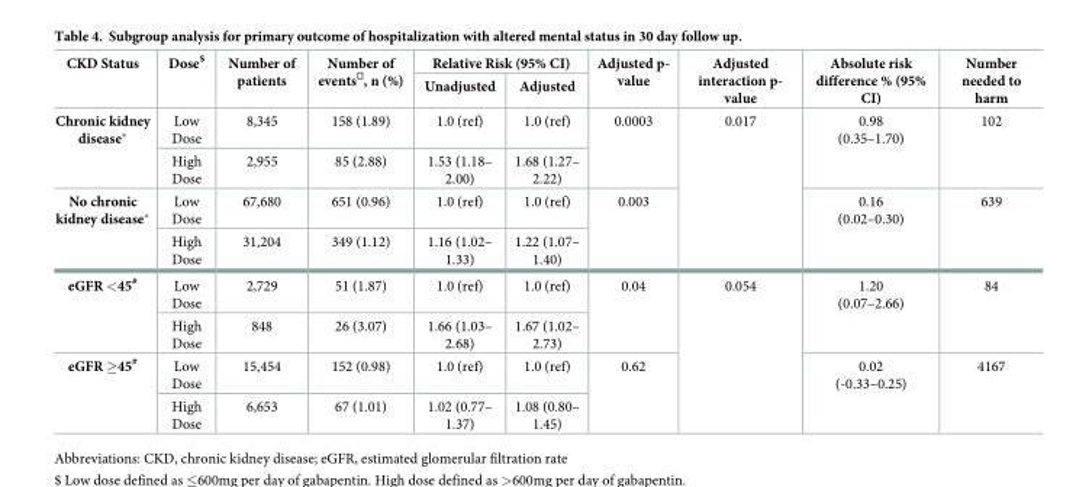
<table><thead><tr><td rowspan="2">CKD Status</td><td rowspan="2">Dose<sup>$</sup></td><td rowspan="2">Number of patients</td><td rowspan="2">Number of events<sup>⏡</sup>, n (%)</td><td colspan="2">Relative Risk (95% CI)</td><td rowspan="2">Adjusted p- value</td><td rowspan="2">Adjusted interaction p- value</td><td rowspan="2">Absolute risk difference % (95% CI)</td><td rowspan="2">Number needed to harm</td></tr><tr><td>Unadjusted</td><td>Adjusted</td></tr></thead><tbody><tr><td rowspan="2">Chronic kidney disease*</td><td>Low Dose</td><td>8,345</td><td>158 (1.89)</td><td>1.0 (ref)</td><td>1.0 (ref)</td><td rowspan="2">0.0003</td><td rowspan="4">0.017</td><td rowspan="2">0.98 (0.35–1.70)</td><td rowspan="2">102</td></tr><tr><td>High Dose</td><td>2,955</td><td>85 (2.88)</td><td>1.53 (1.18– 2.00)</td><td>1.68 (1.27– 2.22)</td></tr><tr><td rowspan="2">No chronic kidney disease*</td><td>Low Dose</td><td>67,680</td><td>651 (0.96)</td><td>1.0 (ref)</td><td>1.0 (ref)</td><td rowspan="2">0.003</td><td rowspan="2">0.16 (0.02–0.30)</td><td rowspan="2">639</td></tr><tr><td>High Dose</td><td>31,204</td><td>349 (1.12)</td><td>1.16 (1.02– 1.33)</td><td>1.22 (1.07– 1.40)</td></tr><tr><td rowspan="2">eGFR &lt;45<sup>#</sup></td><td>Low Dose</td><td>2,729</td><td>51 (1.87)</td><td>1.0 (ref)</td><td>1.0 (ref)</td><td rowspan="2">0.04</td><td rowspan="4">0.054</td><td rowspan="2">1.20 (0.07–2.66)</td><td rowspan="2">84</td></tr><tr><td>High Dose</td><td>848</td><td>26 (3.07)</td><td>1.66 (1.03– 2.68)</td><td>1.67 (1.02– 2.73)</td></tr><tr><td rowspan="2">eGFR ≥45<sup>#</sup></td><td>Low Dose</td><td>15,454</td><td>152 (0.98)</td><td>1.0 (ref)</td><td>1.0 (ref)</td><td rowspan="2">0.62</td><td rowspan="2">0.02 (-0.33–0.25)</td><td rowspan="2">4167</td></tr><tr><td>High Dose</td><td>6,653</td><td>67 (1.01)</td><td>1.02 (0.77– 1.37)</td><td>1.08 (0.80– 1.45)</td></tr></tbody></table>